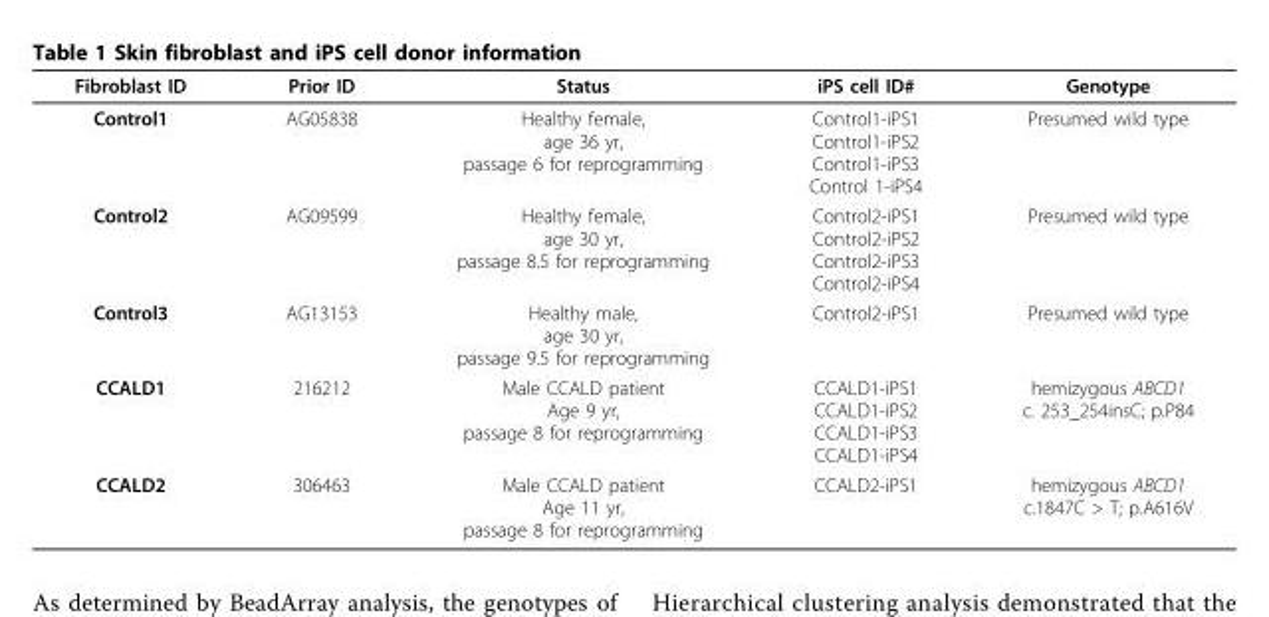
<table><thead><tr><td>Fibroblast ID</td><td>Prior ID</td><td>Status</td><td>iPS cell ID#</td><td>Genotype</td></tr></thead><tbody><tr><td>Control1</td><td>AG05838</td><td>Healthy female, age 36 yr, passage 6 for reprogramming</td><td>Control1-iPS1 Control1-iPS2 Control1-iPS3 Control 1-iPS4</td><td>Presumed wild type</td></tr><tr><td>Control2</td><td>AG09599</td><td>Healthy female, age 30 yr, passage 8.5 for reprogramming</td><td>Control2-iPS1 Control2-iPS2 Control2-iPS3 Control2-iPS4</td><td>Presumed wild type</td></tr><tr><td>Control3</td><td>AG13153</td><td>Healthy male, age 30 yr, passage 9.5 for reprogramming</td><td>Control2-iPS1</td><td>Presumed wild type</td></tr><tr><td>CCALD1</td><td>216212</td><td>Male CCALD patient Age 9 yr, passage 8 for reprogramming</td><td>CCALD1-iPS1 CCALD1-iPS2 CCALD1-iPS3 CCALD1-iPS4</td><td>hemizygous ABCD1 c. 253_254insC; p.P84</td></tr><tr><td>CCALD2</td><td>306463</td><td>Male CCALD patient Age 11 yr, passage 8 for reprogramming</td><td>CCALD2-iPS1</td><td>hemizygous ABCD1 c.1847C &gt; T; p.A616V</td></tr></tbody></table>